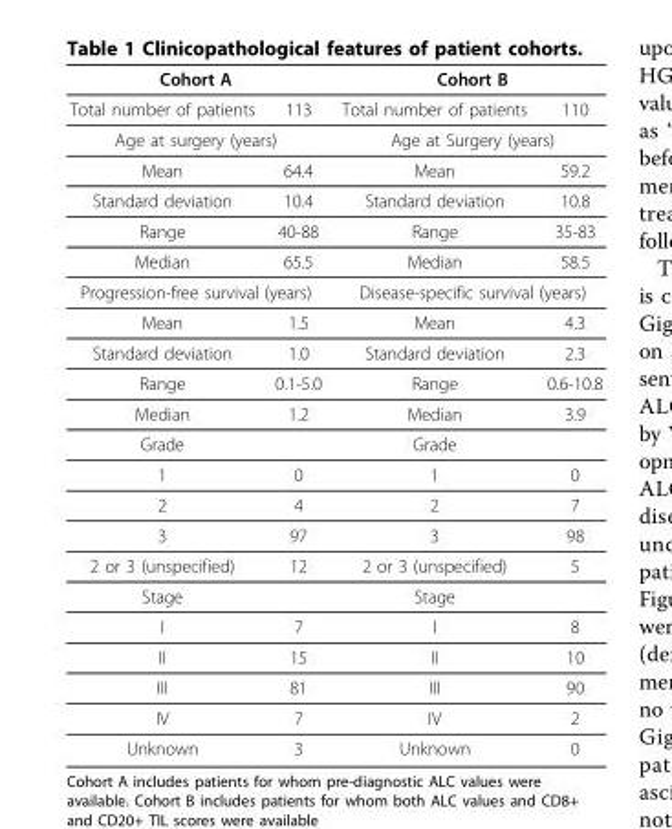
<table><thead><tr><td colspan="2">Cohort A</td><td colspan="2">Cohort B</td></tr><tr><td>Total number of patients</td><td>113</td><td>Total number of patients</td><td>110</td></tr></thead><tbody><tr><td colspan="2">Age at surgery (years)</td><td colspan="2">Age at Surgery (years)</td></tr><tr><td>Mean</td><td>64.4</td><td>Mean</td><td>59.2</td></tr><tr><td>Standard deviation</td><td>10.4</td><td>Standard deviation</td><td>10.8</td></tr><tr><td>Range</td><td>40-88</td><td>Range</td><td>35-83</td></tr><tr><td>Median</td><td>65.5</td><td>Median</td><td>58.5</td></tr><tr><td colspan="2">Progression-free survival (years)</td><td colspan="2">Disease-specific survival (years)</td></tr><tr><td>Mean</td><td>1.5</td><td>Mean</td><td>4.3</td></tr><tr><td>Standard deviation</td><td>1.0</td><td>Standard deviation</td><td>2.3</td></tr><tr><td>Range</td><td>0.1-5.0</td><td>Range</td><td>0.6-10.8</td></tr><tr><td>Median</td><td>1.2</td><td>Median</td><td>3.9</td></tr><tr><td>Grade</td><td></td><td>Grade</td><td></td></tr><tr><td>1</td><td>0</td><td>1</td><td>0</td></tr><tr><td>2</td><td>4</td><td>2</td><td>7</td></tr><tr><td>3</td><td>97</td><td>3</td><td>98</td></tr><tr><td>2 or 3 (unspecified)</td><td>12</td><td>2 or 3 (unspecified)</td><td>5</td></tr><tr><td>Stage</td><td></td><td>Stage</td><td></td></tr><tr><td>I</td><td>7</td><td>I</td><td>8</td></tr><tr><td>II</td><td>15</td><td>II</td><td>10</td></tr><tr><td>III</td><td>81</td><td>III</td><td>90</td></tr><tr><td>IV</td><td>7</td><td>IV</td><td>2</td></tr><tr><td>Unknown</td><td>3</td><td>Unknown</td><td>0</td></tr></tbody></table>